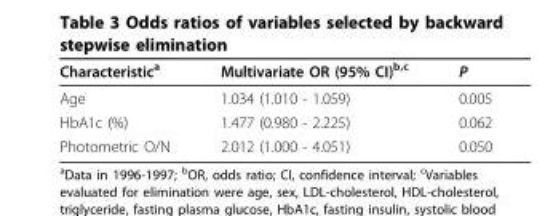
<table><thead><tr><td>Characteristic<sup>a</sup></td><td>Multivariate OR (95% CI)<sup>b,c</sup></td><td>P</td></tr></thead><tbody><tr><td>Age</td><td>1.034 (1.010 - 1.059)</td><td>0.005</td></tr><tr><td>HbA1c (%)</td><td>1.477 (0.980 - 2.225)</td><td>0.062</td></tr><tr><td>Photometric O/N</td><td>2.012 (1.000 - 4.051)</td><td>0.050</td></tr></tbody></table>